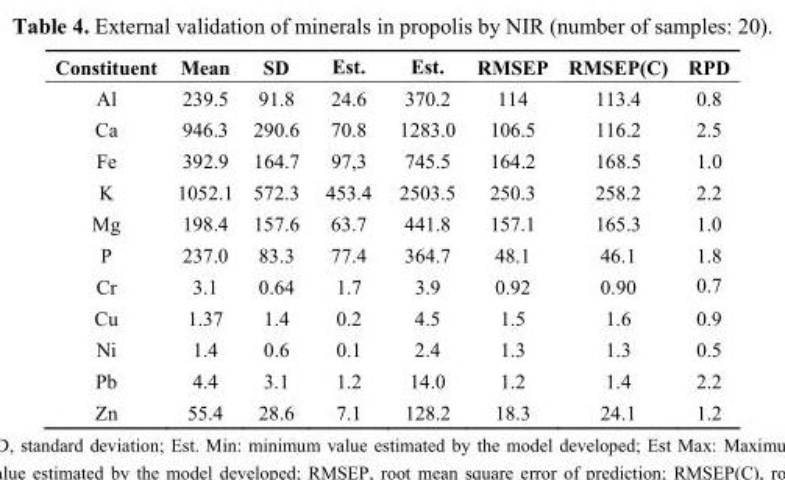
<table><thead><tr><td>Constituent</td><td>Mean</td><td>SD</td><td>Est.</td><td>Est.</td><td>RMSEP</td><td>RMSEP(C)</td><td>RPD</td></tr></thead><tbody><tr><td>Al</td><td>239.5</td><td>91.8</td><td>24.6</td><td>370.2</td><td>114</td><td>113.4</td><td>0.8</td></tr><tr><td>Ca</td><td>946.3</td><td>290.6</td><td>70.8</td><td>1283.0</td><td>106.5</td><td>116.2</td><td>2.5</td></tr><tr><td>Fe</td><td>392.9</td><td>164.7</td><td>97,3</td><td>745.5</td><td>164.2</td><td>168.5</td><td>1.0</td></tr><tr><td>K</td><td>1052.1</td><td>572.3</td><td>453.4</td><td>2503.5</td><td>250.3</td><td>258.2</td><td>2.2</td></tr><tr><td>Mg</td><td>198.4</td><td>157.6</td><td>63.7</td><td>441.8</td><td>157.1</td><td>165.3</td><td>1.0</td></tr><tr><td>P</td><td>237.0</td><td>83.3</td><td>77.4</td><td>364.7</td><td>48.1</td><td>46.1</td><td>1.8</td></tr><tr><td>Cr</td><td>3.1</td><td>0.64</td><td>1.7</td><td>3.9</td><td>0.92</td><td>0.90</td><td>0.7</td></tr><tr><td>Cu</td><td>1.37</td><td>1.4</td><td>0.2</td><td>4.5</td><td>1.5</td><td>1.6</td><td>0.9</td></tr><tr><td>Ni</td><td>1.4</td><td>0.6</td><td>0.1</td><td>2.4</td><td>1.3</td><td>1.3</td><td>0.5</td></tr><tr><td>Pb</td><td>4.4</td><td>3.1</td><td>1.2</td><td>14.0</td><td>1.2</td><td>1.4</td><td>2.2</td></tr><tr><td>Zn</td><td>55.4</td><td>28.6</td><td>7.1</td><td>128.2</td><td>18.3</td><td>24.1</td><td>1.2</td></tr></tbody></table>